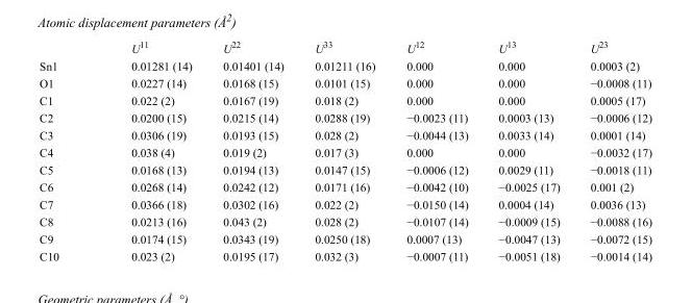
<table><thead><tr><td></td><td>U<sup>11</sup></td><td>U<sup>22</sup></td><td>U<sup>33</sup></td><td>U<sup>12</sup></td><td>U<sup>13</sup></td><td>U<sup>23</sup></td></tr></thead><tbody><tr><td>Sn1</td><td>0.01281 (14)</td><td>0.01401 (14)</td><td>0.01211 (16)</td><td>0.000</td><td>0.000</td><td>0.0003 (2)</td></tr><tr><td>O1</td><td>0.0227 (14)</td><td>0.0168 (15)</td><td>0.0101 (15)</td><td>0.000</td><td>0.000</td><td>−0.0008 (11)</td></tr><tr><td>C1</td><td>0.022 (2)</td><td>0.0167 (19)</td><td>0.018 (2)</td><td>0.000</td><td>0.000</td><td>0.0005 (17)</td></tr><tr><td>C2</td><td>0.0200 (15)</td><td>0.0215 (14)</td><td>0.0288 (19)</td><td>−0.0023 (11)</td><td>0.0003 (13)</td><td>−0.0006 (12)</td></tr><tr><td>C3</td><td>0.0306 (19)</td><td>0.0193 (15)</td><td>0.028 (2)</td><td>−0.0044 (13)</td><td>0.0033 (14)</td><td>0.0001 (14)</td></tr><tr><td>C4</td><td>0.038 (4)</td><td>0.019 (2)</td><td>0.017 (3)</td><td>0.000</td><td>0.000</td><td>−0.0032 (17)</td></tr><tr><td>C5</td><td>0.0168 (13)</td><td>0.0194 (13)</td><td>0.0147 (15)</td><td>−0.0006 (12)</td><td>0.0029 (11)</td><td>−0.0018 (11)</td></tr><tr><td>C6</td><td>0.0268 (14)</td><td>0.0242 (12)</td><td>0.0171 (16)</td><td>−0.0042 (10)</td><td>−0.0025 (17)</td><td>0.001 (2)</td></tr><tr><td>C7</td><td>0.0366 (18)</td><td>0.0302 (16)</td><td>0.022 (2)</td><td>−0.0150 (14)</td><td>0.0004 (14)</td><td>0.0036 (13)</td></tr><tr><td>C8</td><td>0.0213 (16)</td><td>0.043 (2)</td><td>0.028 (2)</td><td>−0.0107 (14)</td><td>−0.0009 (15)</td><td>−0.0088 (16)</td></tr><tr><td>C9</td><td>0.0174 (15)</td><td>0.0343 (19)</td><td>0.0250 (18)</td><td>0.0007 (13)</td><td>−0.0047 (13)</td><td>−0.0072 (15)</td></tr><tr><td>C10</td><td>0.023 (2)</td><td>0.0195 (17)</td><td>0.032 (3)</td><td>−0.0007 (11)</td><td>−0.0051 (18)</td><td>−0.0014 (14)</td></tr></tbody></table>